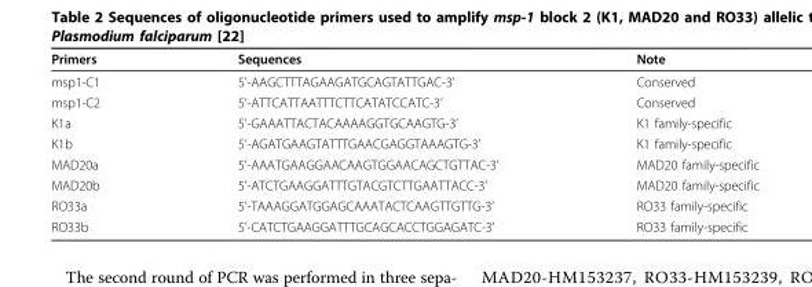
<table><thead><tr><td>Primers</td><td>Sequences</td><td>Note</td></tr></thead><tbody><tr><td>msp1-C1</td><td>5’-AAGCTTTAGAAGATGCAGTATTGAC-3’</td><td>Conserved</td></tr><tr><td>msp1-C2</td><td>5’-ATTCATTAATTTCTTCATATCCATC-3’</td><td>Conserved</td></tr><tr><td>K1a</td><td>5’-GAAATTACTACAAAAGGTGCAAGTG-3’</td><td>K1 family-specific</td></tr><tr><td>K1b</td><td>5’-AGATGAAGTATTTGAACGAGGTAAAGTG-3’</td><td>K1 family-specific</td></tr><tr><td>MAD20a</td><td>5’-AAATGAAGGAACAAGTGGAACAGCTGTTAC-3’</td><td>MAD20 family-specific</td></tr><tr><td>MAD20b</td><td>5’-ATCTGAAGGATTTGTACGTCTTGAATTACC-3’</td><td>MAD20 family-specific</td></tr><tr><td>RO33a</td><td>5’-TAAAGGATGGAGCAAATACTCAAGTTGTTG-3’</td><td>RO33 family-specific</td></tr><tr><td>RO33b</td><td>5’-CATCTGAAGGATTTGCAGCACCTGGAGATC-3’</td><td>RO33 family-specific</td></tr></tbody></table>